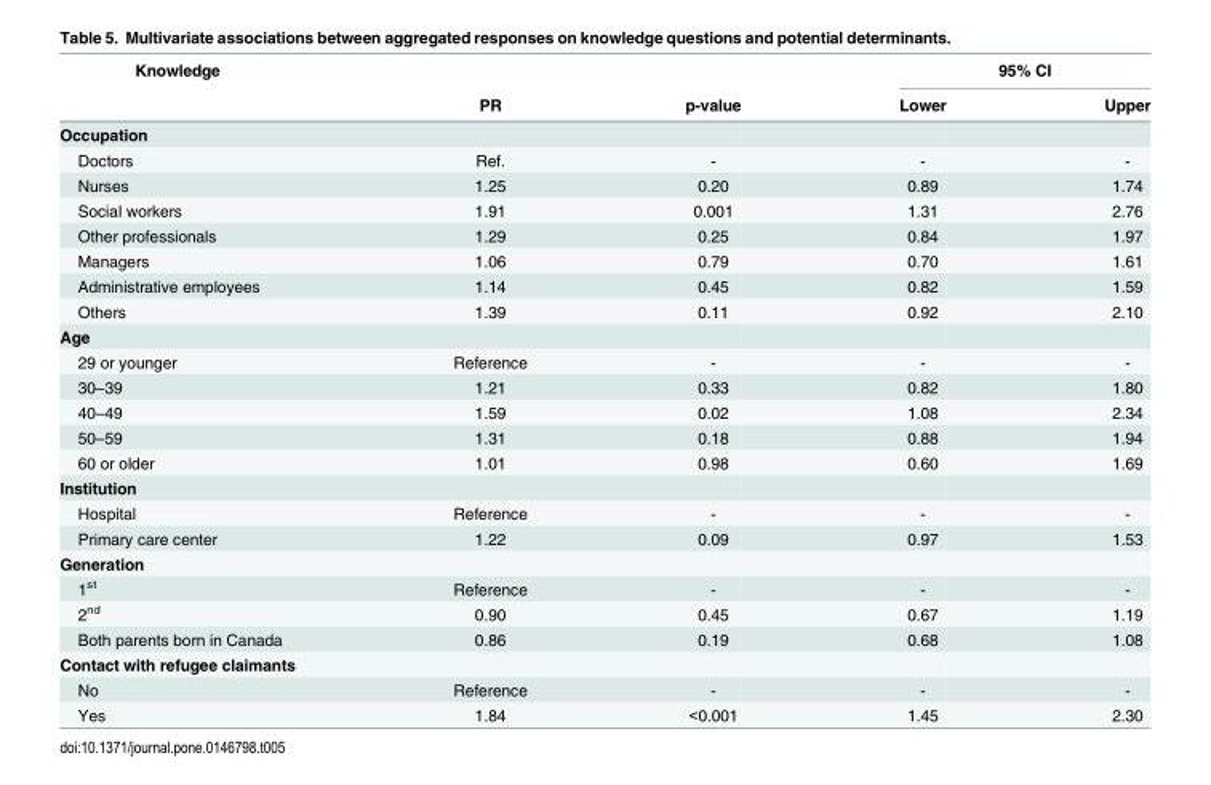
<table><thead><tr><td rowspan="2">Knowledge</td><td rowspan="2">PR</td><td rowspan="2">p-value</td><td colspan="2">95% CI</td></tr><tr><td>Lower</td><td>Upper</td></tr></thead><tbody><tr><td colspan="5">Occupation</td></tr><tr><td>Doctors</td><td>Ref.</td><td>-</td><td>-</td><td>-</td></tr><tr><td>Nurses</td><td>1.25</td><td>0.20</td><td>0.89</td><td>1.74</td></tr><tr><td>Social workers</td><td>1.91</td><td>0.001</td><td>1.31</td><td>2.76</td></tr><tr><td>Other professionals</td><td>1.29</td><td>0.25</td><td>0.84</td><td>1.97</td></tr><tr><td>Managers</td><td>1.06</td><td>0.79</td><td>0.70</td><td>1.61</td></tr><tr><td>Administrative employees</td><td>1.14</td><td>0.45</td><td>0.82</td><td>1.59</td></tr><tr><td>Others</td><td>1.39</td><td>0.11</td><td>0.92</td><td>2.10</td></tr><tr><td colspan="5">Age</td></tr><tr><td>29 or younger</td><td>Reference</td><td>-</td><td>-</td><td>-</td></tr><tr><td>30–39</td><td>1.21</td><td>0.33</td><td>0.82</td><td>1.80</td></tr><tr><td>40–49</td><td>1.59</td><td>0.02</td><td>1.08</td><td>2.34</td></tr><tr><td>50–59</td><td>1.31</td><td>0.18</td><td>0.88</td><td>1.94</td></tr><tr><td>60 or older</td><td>1.01</td><td>0.98</td><td>0.60</td><td>1.69</td></tr><tr><td colspan="5">Institution</td></tr><tr><td>Hospital</td><td>Reference</td><td>-</td><td>-</td><td>-</td></tr><tr><td>Primary care center</td><td>1.22</td><td>0.09</td><td>0.97</td><td>1.53</td></tr><tr><td colspan="5">Generation</td></tr><tr><td>1<sup>st</sup></td><td>Reference</td><td>-</td><td>-</td><td>-</td></tr><tr><td>2<sup>nd</sup></td><td>0.90</td><td>0.45</td><td>0.67</td><td>1.19</td></tr><tr><td>Both parents born in Canada</td><td>0.86</td><td>0.19</td><td>0.68</td><td>1.08</td></tr><tr><td colspan="5">Contact with refugee claimants</td></tr><tr><td>No</td><td>Reference</td><td>-</td><td>-</td><td>-</td></tr><tr><td>Yes</td><td>1.84</td><td>&lt;0.001</td><td>1.45</td><td>2.30</td></tr></tbody></table>